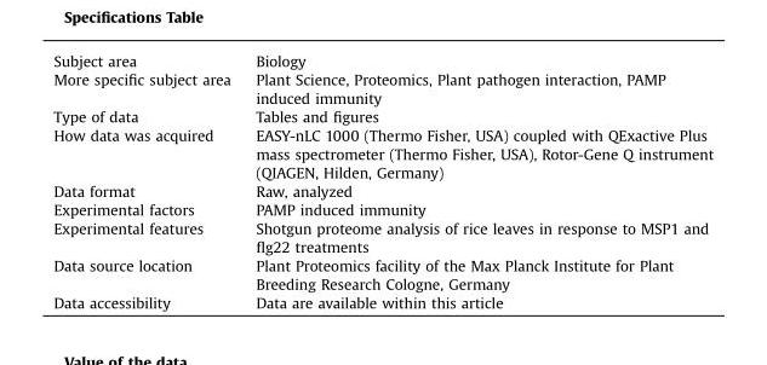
<table><tbody><tr><td>Subject area</td><td>Biology</td></tr><tr><td>More specific subject area</td><td>Plant Science, Proteomics, Plant pathogen interaction, PAMP induced immunity</td></tr><tr><td>Type of data</td><td>Tables and figures</td></tr><tr><td>How data was acquired</td><td>EASY-nLC 1000 (Thermo Fisher, USA) coupled with QExactive Plus mass spectrometer (Thermo Fisher, USA), Rotor-Gene Q instrument (QIAGEN, Hilden, Germany)</td></tr><tr><td>Data format</td><td>Raw, analyzed</td></tr><tr><td>Experimental factors</td><td>PAMP induced immunity</td></tr><tr><td>Experimental features</td><td>Shotgun proteome analysis of rice leaves in response to MSP1 and flg22 treatments</td></tr><tr><td>Data source location</td><td>Plant Proteomics facility of the Max Planck Institute for Plant Breeding Research Cologne, Germany</td></tr><tr><td>Data accessibility</td><td>Data are available within this article</td></tr></tbody></table>